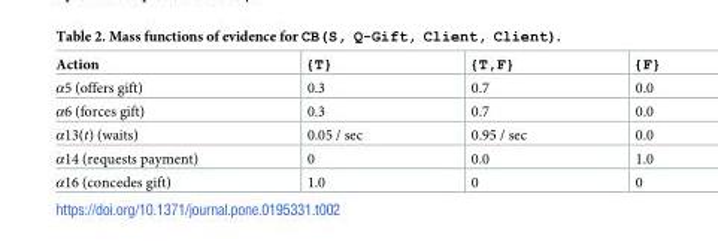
<table><thead><tr><td>Action</td><td>{T}</td><td>{T,F}</td><td>{F}</td></tr></thead><tbody><tr><td>α5 (offers gift)</td><td>0.3</td><td>0.7</td><td>0.0</td></tr><tr><td>α6 (forces gift)</td><td>0.3</td><td>0.7</td><td>0.0</td></tr><tr><td>α13(t) (waits)</td><td>0.05 / sec</td><td>0.95 / sec</td><td>0.0</td></tr><tr><td>α14 (requests payment)</td><td>0</td><td>0.0</td><td>1.0</td></tr><tr><td>α16 (concedes gift)</td><td>1.0</td><td>0</td><td>0</td></tr></tbody></table>